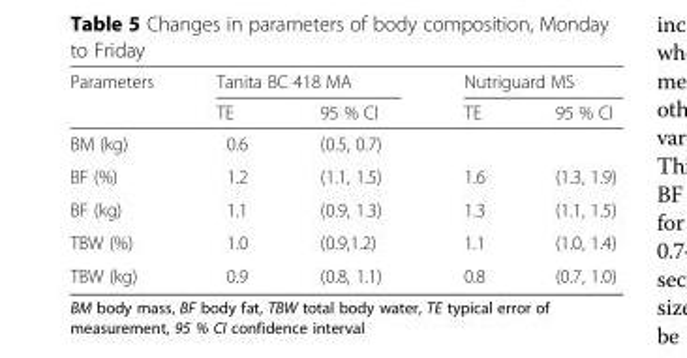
<table><thead><tr><td rowspan="2">Parameters</td><td colspan="2">Tanita BC 418 MA</td><td colspan="2">Nutriguard MS</td></tr><tr><td>TE</td><td>95 % CI</td><td>TE</td><td>95 % CI</td></tr></thead><tbody><tr><td>BM (kg)</td><td>0.6</td><td>(0.5, 0.7)</td><td></td><td></td></tr><tr><td>BF (%)</td><td>1.2</td><td>(1.1, 1.5)</td><td>1.6</td><td>(1.3, 1.9)</td></tr><tr><td>BF (kg)</td><td>1.1</td><td>(0.9, 1.3)</td><td>1.3</td><td>(1.1, 1.5)</td></tr><tr><td>TBW (%)</td><td>1.0</td><td>(0.9,1.2)</td><td>1.1</td><td>(1.0, 1.4)</td></tr><tr><td>TBW (kg)</td><td>0.9</td><td>(0.8, 1.1)</td><td>0.8</td><td>(0.7, 1.0)</td></tr></tbody></table>